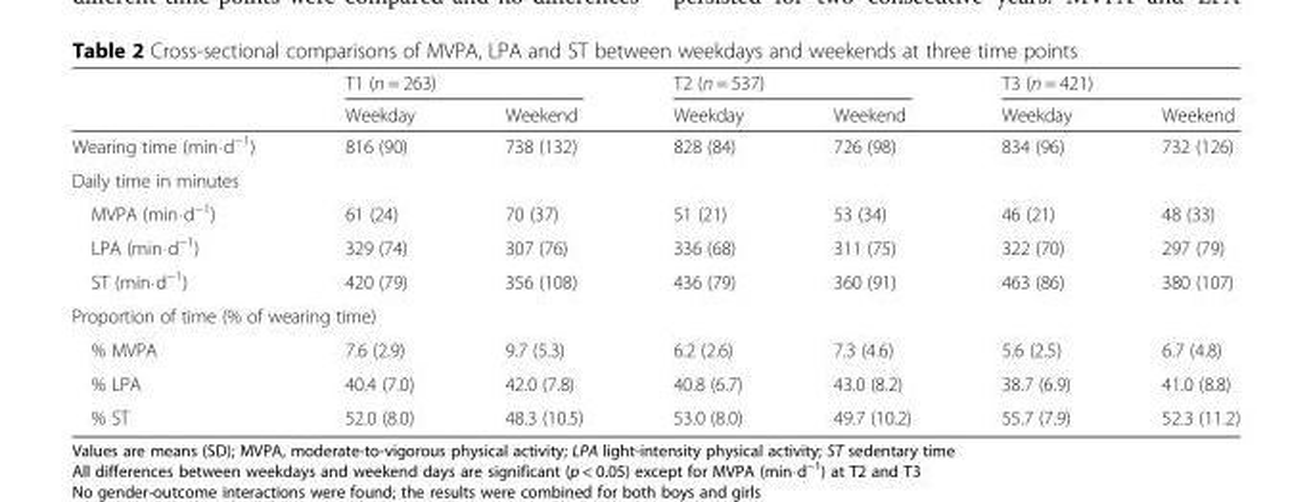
<table><thead><tr><td rowspan="2"></td><td colspan="2">T1 (n = 263)</td><td colspan="2">T2 (n = 537)</td><td colspan="2">T3 (n = 421)</td></tr><tr><td>Weekday</td><td>Weekend</td><td>Weekday</td><td>Weekend</td><td>Weekday</td><td>Weekend</td></tr></thead><tbody><tr><td>Wearing time (min⋅d<sup>−1</sup>)</td><td>816 (90)</td><td>738 (132)</td><td>828 (84)</td><td>726 (98)</td><td>834 (96)</td><td>732 (126)</td></tr><tr><td colspan="7">Daily time in minutes</td></tr><tr><td>MVPA (min⋅d<sup>−1</sup>)</td><td>61 (24)</td><td>70 (37)</td><td>51 (21)</td><td>53 (34)</td><td>46 (21)</td><td>48 (33)</td></tr><tr><td>LPA (min⋅d<sup>−1</sup>)</td><td>329 (74)</td><td>307 (76)</td><td>336 (68)</td><td>311 (75)</td><td>322 (70)</td><td>297 (79)</td></tr><tr><td>ST (min⋅d<sup>−1</sup>)</td><td>420 (79)</td><td>356 (108)</td><td>436 (79)</td><td>360 (91)</td><td>463 (86)</td><td>380 (107)</td></tr><tr><td colspan="7">Proportion of time (% of wearing time)</td></tr><tr><td>% MVPA</td><td>7.6 (2.9)</td><td>9.7 (5.3)</td><td>6.2 (2.6)</td><td>7.3 (4.6)</td><td>5.6 (2.5)</td><td>6.7 (4.8)</td></tr><tr><td>% LPA</td><td>40.4 (7.0)</td><td>42.0 (7.8)</td><td>40.8 (6.7)</td><td>43.0 (8.2)</td><td>38.7 (6.9)</td><td>41.0 (8.8)</td></tr><tr><td>% ST</td><td>52.0 (8.0)</td><td>48.3 (10.5)</td><td>53.0 (8.0)</td><td>49.7 (10.2)</td><td>55.7 (7.9)</td><td>52.3 (11.2)</td></tr></tbody></table>